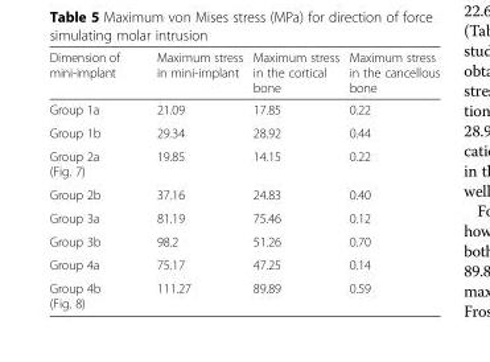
<table><thead><tr><td>Dimension of mini-implant</td><td>Maximum stress in mini-implant</td><td>Maximum stress in the cortical bone</td><td>Maximum stress in the cancellous bone</td></tr></thead><tbody><tr><td>Group 1a</td><td>21.09</td><td>17.85</td><td>0.22</td></tr><tr><td>Group 1b</td><td>29.34</td><td>28.92</td><td>0.44</td></tr><tr><td>Group 2a (Fig. 7)</td><td>19.85</td><td>14.15</td><td>0.22</td></tr><tr><td>Group 2b</td><td>37.16</td><td>24.83</td><td>0.40</td></tr><tr><td>Group 3a</td><td>81.19</td><td>75.46</td><td>0.12</td></tr><tr><td>Group 3b</td><td>98.2</td><td>51.26</td><td>0.70</td></tr><tr><td>Group 4a</td><td>75.17</td><td>47.25</td><td>0.14</td></tr><tr><td>Group 4b (Fig. 8)</td><td>111.27</td><td>89.89</td><td>0.59</td></tr></tbody></table>